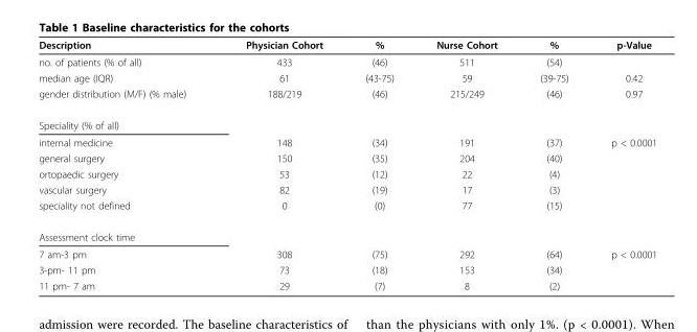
<table><thead><tr><td>Description</td><td>Physician Cohort</td><td>%</td><td>Nurse Cohort</td><td>%</td><td>p-Value</td></tr></thead><tbody><tr><td>no. of patients (% of all)</td><td>433</td><td>(46)</td><td>511</td><td>(54)</td><td></td></tr><tr><td>median age (IQR)</td><td>61</td><td>(43-75)</td><td>59</td><td>(39-75)</td><td>0.42</td></tr><tr><td>gender distribution (M/F) (% male)</td><td>188/219</td><td>(46)</td><td>215/249</td><td>(46)</td><td>0.97</td></tr><tr><td colspan="6">Speciality (% of all)</td></tr><tr><td>internal medicine</td><td>148</td><td>(34)</td><td>191</td><td>(37)</td><td>p &lt; 0.0001</td></tr><tr><td>general surgery</td><td>150</td><td>(35)</td><td>204</td><td>(40)</td><td></td></tr><tr><td>ortopaedic surgery</td><td>53</td><td>(12)</td><td>22</td><td>(4)</td><td></td></tr><tr><td>vascular surgery</td><td>82</td><td>(19)</td><td>17</td><td>(3)</td><td></td></tr><tr><td>speciality not defined</td><td>0</td><td>(0)</td><td>77</td><td>(15)</td><td></td></tr><tr><td colspan="6">Assessment clock time</td></tr><tr><td>7 am-3 pm</td><td>308</td><td>(75)</td><td>292</td><td>(64)</td><td>p &lt; 0.0001</td></tr><tr><td>3-pm- 11 pm</td><td>73</td><td>(18)</td><td>153</td><td>(34)</td><td></td></tr><tr><td>11 pm- 7 am</td><td>29</td><td>(7)</td><td>8</td><td>(2)</td><td></td></tr></tbody></table>